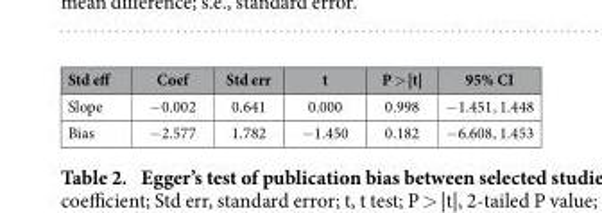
<table><thead><tr><td>Std eff</td><td>Coef</td><td>Std err</td><td>t</td><td>P &gt; |t|</td><td>95% CI</td></tr></thead><tbody><tr><td>Slope</td><td>− 0.002</td><td>0.641</td><td>0.000</td><td>0.998</td><td>− 1.451, 1.448</td></tr><tr><td>Bias</td><td>− 2.577</td><td>1.782</td><td>− 1.450</td><td>0.182</td><td>− 6.608, 1.453</td></tr></tbody></table>